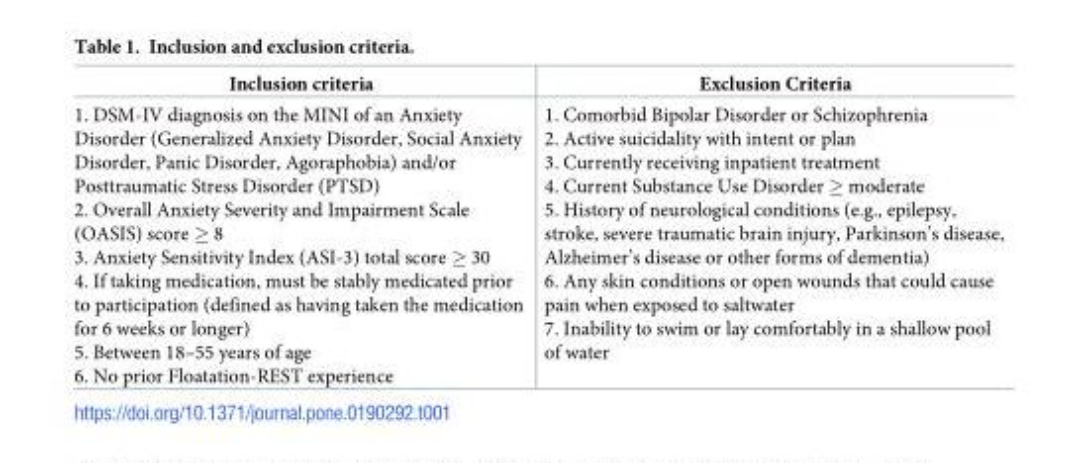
<table><thead><tr><td>Inclusion criteria</td><td>Exclusion Criteria</td></tr></thead><tbody><tr><td>1. DSM-IV diagnosis on the MINI of an Anxiety Disorder (Generalized Anxiety Disorder, Social Anxiety Disorder, Panic Disorder, Agoraphobia) and/or Posttraumatic Stress Disorder (PTSD) 2. Overall Anxiety Severity and Impairment Scale (OASIS) score ≥ 8 3. Anxiety Sensitivity Index (ASI-3) total score ≥ 30 4. If taking medication, must be stably medicated prior to participation (defined as having taken the medication for 6 weeks or longer) 5. Between 18–55 years of age 6. No prior Floatation-REST experience</td><td>1. Comorbid Bipolar Disorder or Schizophrenia 2. Active suicidality with intent or plan 3. Currently receiving inpatient treatment 4. Current Substance Use Disorder ≥ moderate 5. History of neurological conditions (e.g., epilepsy, stroke, severe traumatic brain injury, Parkinson’s disease, Alzheimer’s disease or other forms of dementia) 6. Any skin conditions or open wounds that could cause pain when exposed to saltwater 7. Inability to swim or lay comfortably in a shallow pool of water</td></tr></tbody></table>